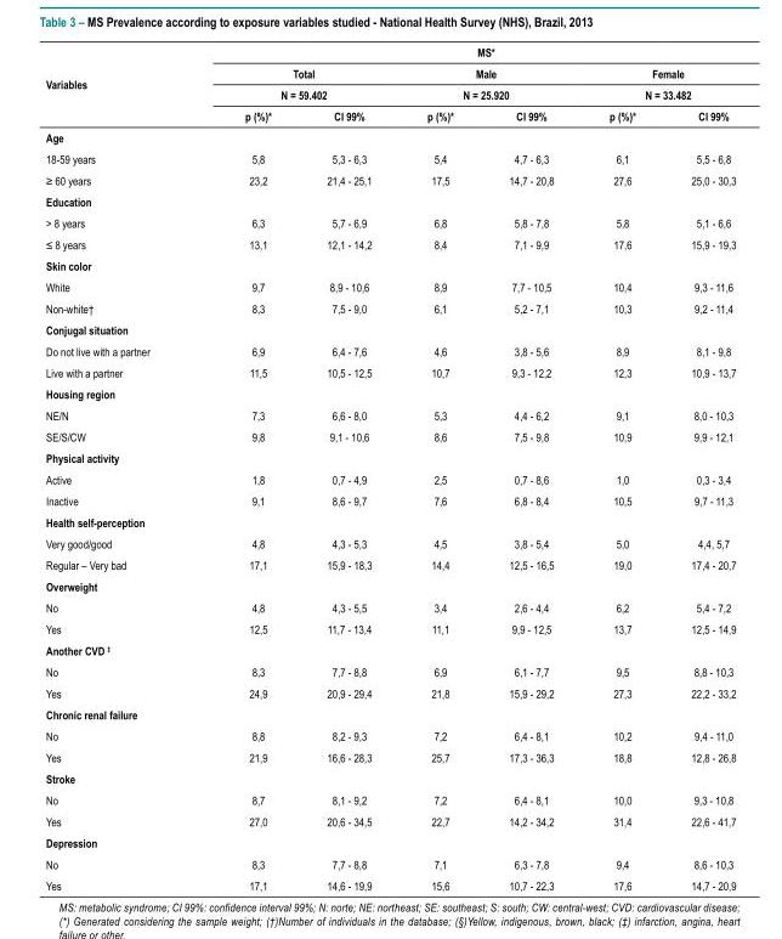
<table><thead><tr><td rowspan="4">Variables</td><td colspan="6">MS*</td></tr><tr><td rowspan="2" colspan="2">Total N = 59.402</td><td rowspan="2" colspan="2">Male N = 25.920</td><td rowspan="2" colspan="2">Female N = 33.482</td></tr><tr></tr><tr><td>p (%)*</td><td>CI 99%</td><td>p (%)*</td><td>CI 99%</td><td>p (%)*</td><td>CI 99%</td></tr></thead><tbody><tr><td colspan="7">Age</td></tr><tr><td>18-59 years</td><td>5,8</td><td>5,3 - 6,3</td><td>5,4</td><td>4,7 - 6,3</td><td>6,1</td><td>5,5 - 6,8</td></tr><tr><td>≥ 60 years</td><td>23,2</td><td>21,4 - 25,1</td><td>17,5</td><td>14,7 - 20,8</td><td>27,6</td><td>25,0 - 30,3</td></tr><tr><td colspan="7">Education</td></tr><tr><td>&gt; 8 years</td><td>6,3</td><td>5,7 - 6,9</td><td>6,8</td><td>5,8 - 7,8</td><td>5,8</td><td>5,1 - 6,6</td></tr><tr><td>≤ 8 years</td><td>13,1</td><td>12,1 - 14,2</td><td>8,4</td><td>7,1 - 9,9</td><td>17,6</td><td>15,9 - 19,3</td></tr><tr><td colspan="7">Skin color</td></tr><tr><td>White</td><td>9,7</td><td>8,9 - 10,6</td><td>8,9</td><td>7,7 - 10,5</td><td>10,4</td><td>9,3 - 11,6</td></tr><tr><td>Non-white†</td><td>8,3</td><td>7,5 - 9,0</td><td>6,1</td><td>5,2 - 7,1</td><td>10,3</td><td>9,2 - 11,4</td></tr><tr><td colspan="7">Conjugal situation</td></tr><tr><td>Do not live with a partner</td><td>6,9</td><td>6,4 - 7,6</td><td>4,6</td><td>3,8 - 5,6</td><td>8,9</td><td>8,1 - 9,8</td></tr><tr><td>Live with a partner</td><td>11,5</td><td>10,5 - 12,5</td><td>10,7</td><td>9,3 - 12,2</td><td>12,3</td><td>10,9 - 13,7</td></tr><tr><td colspan="7">Housing region</td></tr><tr><td>NE/N</td><td>7,3</td><td>6,6 - 8,0</td><td>5,3</td><td>4,4 - 6,2</td><td>9,1</td><td>8,0 - 10,3</td></tr><tr><td>SE/S/CW</td><td>9,8</td><td>9,1 - 10,6</td><td>8,6</td><td>7,5 - 9,8</td><td>10,9</td><td>9,9 - 12,1</td></tr><tr><td colspan="7">Physical activity</td></tr><tr><td>Active</td><td>1,8</td><td>0,7 - 4,9</td><td>2,5</td><td>0,7 - 8,6</td><td>1,0</td><td>0,3 - 3,4</td></tr><tr><td>Inactive</td><td>9,1</td><td>8,6 - 9,7</td><td>7,6</td><td>6,8 - 8,4</td><td>10,5</td><td>9,7 - 11,3</td></tr><tr><td colspan="7">Health self-perception</td></tr><tr><td>Very good/good</td><td>4,8</td><td>4,3 - 5,3</td><td>4,5</td><td>3,8 - 5,4</td><td>5,0</td><td>4,4, 5,7</td></tr><tr><td>Regular – Very bad</td><td>17,1</td><td>15,9 - 18,3</td><td>14,4</td><td>12,5 - 16,5</td><td>19,0</td><td>17,4 - 20,7</td></tr><tr><td colspan="7">Overweight</td></tr><tr><td>No</td><td>4,8</td><td>4,3 - 5,5</td><td>3,4</td><td>2,6 - 4,4</td><td>6,2</td><td>5,4 - 7,2</td></tr><tr><td>Yes</td><td>12,5</td><td>11,7 - 13,4</td><td>11,1</td><td>9,9 - 12,5</td><td>13,7</td><td>12,5 - 14,9</td></tr><tr><td colspan="7">Another CVD <sup>‡</sup></td></tr><tr><td>No</td><td>8,3</td><td>7,7 - 8,8</td><td>6,9</td><td>6,1 - 7,7</td><td>9,5</td><td>8,8 - 10,3</td></tr><tr><td>Yes</td><td>24,9</td><td>20,9 - 29,4</td><td>21,8</td><td>15,9 - 29,2</td><td>27,3</td><td>22,2 - 33,2</td></tr><tr><td colspan="7">Chronic renal failure</td></tr><tr><td>No</td><td>8,8</td><td>8,2 - 9,3</td><td>7,2</td><td>6,4 - 8,1</td><td>10,2</td><td>9,4 - 11,0</td></tr><tr><td>Yes</td><td>21,9</td><td>16,6 - 28,3</td><td>25,7</td><td>17,3 - 36,3</td><td>18,8</td><td>12,8 - 26,8</td></tr><tr><td colspan="7">Stroke</td></tr><tr><td>No</td><td>8,7</td><td>8,1 - 9,2</td><td>7,2</td><td>6,4 - 8,1</td><td>10,0</td><td>9,3 - 10,8</td></tr><tr><td>Yes</td><td>27,0</td><td>20,6 - 34,5</td><td>22,7</td><td>14,2 - 34,2</td><td>31,4</td><td>22,6 - 41,7</td></tr><tr><td colspan="7">Depression</td></tr><tr><td>No</td><td>8,3</td><td>7,7 - 8,8</td><td>7,1</td><td>6,3 - 7,8</td><td>9,4</td><td>8,6 - 10,3</td></tr><tr><td>Yes</td><td>17,1</td><td>14,6 - 19,9</td><td>15,6</td><td>10,7 - 22,3</td><td>17,6</td><td>14,7 - 20,9</td></tr></tbody></table>